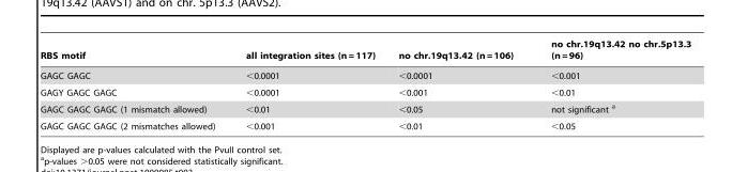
<table><thead><tr><td>RBS motif</td><td>all integration sites (n = 117)</td><td>no chr.19q13.42 (n = 106)</td><td>no chr.19q13.42 no chr.5p13.3 (n = 96)</td></tr></thead><tbody><tr><td>GAGC GAGC</td><td>&lt;0.0001</td><td>&lt;0.0001</td><td>&lt;0.001</td></tr><tr><td>GAGY GAGC GAGC</td><td>&lt;0.0001</td><td>&lt;0.001</td><td>&lt;0.01</td></tr><tr><td>GAGC GAGC GAGC (1 mismatch allowed)</td><td>&lt;0.01</td><td>&lt;0.05</td><td>not significant a</td></tr><tr><td>GAGC GAGC GAGC (2 mismatches allowed)</td><td>&lt;0.001</td><td>&lt;0.01</td><td>&lt;0.05</td></tr></tbody></table>